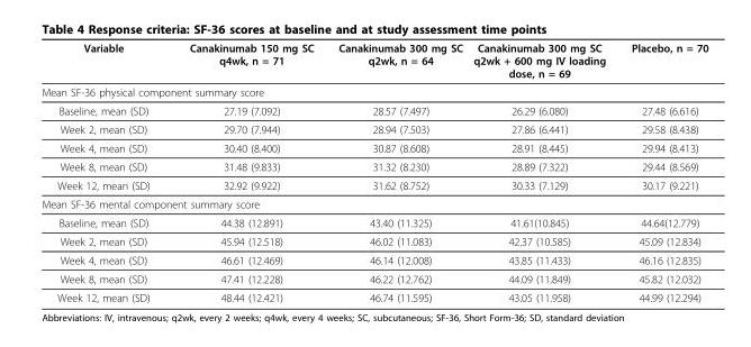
<table><thead><tr><td>Variable</td><td>Canakinumab 150 mg SC q4wk, n = 71</td><td>Canakinumab 300 mg SC q2wk, n = 64</td><td>Canakinumab 300 mg SC q2wk + 600 mg IV loading dose, n = 69</td><td>Placebo, n = 70</td></tr></thead><tbody><tr><td colspan="5">Mean SF-36 physical component summary score</td></tr><tr><td>Baseline, mean (SD)</td><td>27.19 (7.092)</td><td>28.57 (7.497)</td><td>26.29 (6.080)</td><td>27.48 (6.616)</td></tr><tr><td>Week 2, mean (SD)</td><td>29.70 (7.944)</td><td>28.94 (7.503)</td><td>27.86 (6.441)</td><td>29.58 (8.438)</td></tr><tr><td>Week 4, mean (SD)</td><td>30.40 (8.400)</td><td>30.87 (8.608)</td><td>28.91 (8.445)</td><td>29.94 (8.413)</td></tr><tr><td>Week 8, mean (SD)</td><td>31.48 (9.833)</td><td>31.32 (8.230)</td><td>28.89 (7.322)</td><td>29.44 (8.569)</td></tr><tr><td>Week 12, mean (SD)</td><td>32.92 (9.922)</td><td>31.62 (8.752)</td><td>30.33 (7.129)</td><td>30.17 (9.221)</td></tr><tr><td colspan="5">Mean SF-36 mental component summary score</td></tr><tr><td>Baseline, mean (SD)</td><td>44.38 (12.891)</td><td>43.40 (11.325)</td><td>41.61(10.845)</td><td>44.64(12.779)</td></tr><tr><td>Week 2, mean (SD)</td><td>45.94 (12.518)</td><td>46.02 (11.083)</td><td>42.37 (10.585)</td><td>45.09 (12.834)</td></tr><tr><td>Week 4, mean (SD)</td><td>46.61 (12.469)</td><td>46.14 (12.008)</td><td>43.85 (11.433)</td><td>46.16 (12.835)</td></tr><tr><td>Week 8, mean (SD)</td><td>47.41 (12.228)</td><td>46.22 (12.762)</td><td>44.09 (11.849)</td><td>45.82 (12.032)</td></tr><tr><td>Week 12, mean (SD)</td><td>48.44 (12.421)</td><td>46.74 (11.595)</td><td>43.05 (11.958)</td><td>44.99 (12.294)</td></tr></tbody></table>